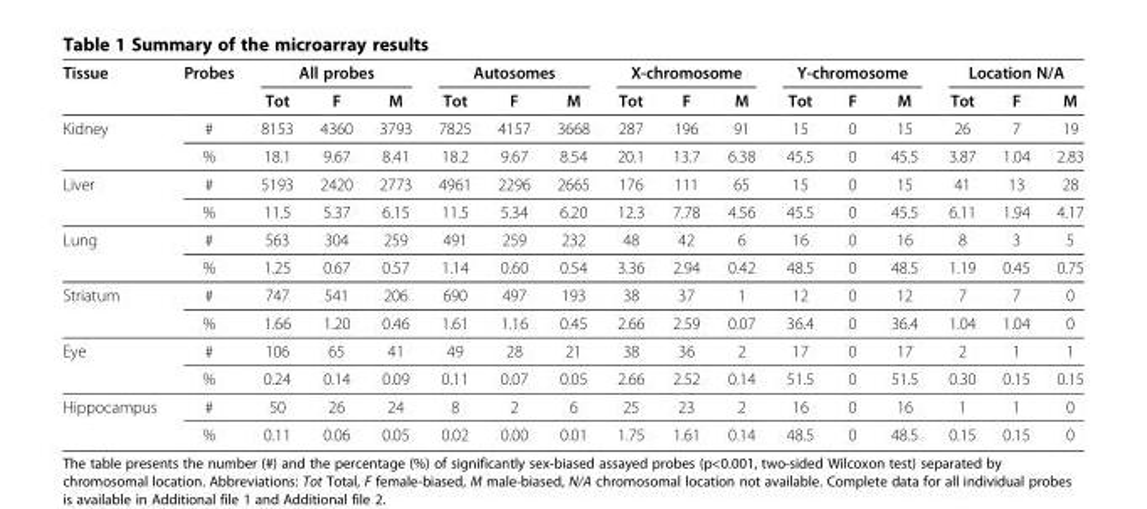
<table><thead><tr><td rowspan="2">Tissue</td><td rowspan="2">Probes</td><td colspan="3">All probes</td><td colspan="3">Autosomes</td><td colspan="3">X-chromosome</td><td colspan="3">Y-chromosome</td><td colspan="3">Location N/A</td></tr><tr><td>Tot</td><td>F</td><td>M</td><td>Tot</td><td>F</td><td>M</td><td>Tot</td><td>F</td><td>M</td><td>Tot</td><td>F</td><td>M</td><td>Tot</td><td>F</td><td>M</td></tr></thead><tbody><tr><td rowspan="2">Kidney</td><td>#</td><td>8153</td><td>4360</td><td>3793</td><td>7825</td><td>4157</td><td>3668</td><td>287</td><td>196</td><td>91</td><td>15</td><td>0</td><td>15</td><td>26</td><td>7</td><td>19</td></tr><tr><td>%</td><td>18.1</td><td>9.67</td><td>8.41</td><td>18.2</td><td>9.67</td><td>8.54</td><td>20.1</td><td>13.7</td><td>6.38</td><td>45.5</td><td>0</td><td>45.5</td><td>3.87</td><td>1.04</td><td>2.83</td></tr><tr><td rowspan="2">Liver</td><td>#</td><td>5193</td><td>2420</td><td>2773</td><td>4961</td><td>2296</td><td>2665</td><td>176</td><td>111</td><td>65</td><td>15</td><td>0</td><td>15</td><td>41</td><td>13</td><td>28</td></tr><tr><td>%</td><td>11.5</td><td>5.37</td><td>6.15</td><td>11.5</td><td>5.34</td><td>6.20</td><td>12.3</td><td>7.78</td><td>4.56</td><td>45.5</td><td>0</td><td>45.5</td><td>6.11</td><td>1.94</td><td>4.17</td></tr><tr><td rowspan="2">Lung</td><td>#</td><td>563</td><td>304</td><td>259</td><td>491</td><td>259</td><td>232</td><td>48</td><td>42</td><td>6</td><td>16</td><td>0</td><td>16</td><td>8</td><td>3</td><td>5</td></tr><tr><td>%</td><td>1.25</td><td>0.67</td><td>0.57</td><td>1.14</td><td>0.60</td><td>0.54</td><td>3.36</td><td>2.94</td><td>0.42</td><td>48.5</td><td>0</td><td>48.5</td><td>1.19</td><td>0.45</td><td>0.75</td></tr><tr><td rowspan="2">Striatum</td><td>#</td><td>747</td><td>541</td><td>206</td><td>690</td><td>497</td><td>193</td><td>38</td><td>37</td><td>1</td><td>12</td><td>0</td><td>12</td><td>7</td><td>7</td><td>0</td></tr><tr><td>%</td><td>1.66</td><td>1.20</td><td>0.46</td><td>1.61</td><td>1.16</td><td>0.45</td><td>2.66</td><td>2.59</td><td>0.07</td><td>36.4</td><td>0</td><td>36.4</td><td>1.04</td><td>1.04</td><td>0</td></tr><tr><td rowspan="2">Eye</td><td>#</td><td>106</td><td>65</td><td>41</td><td>49</td><td>28</td><td>21</td><td>38</td><td>36</td><td>2</td><td>17</td><td>0</td><td>17</td><td>2</td><td>1</td><td>1</td></tr><tr><td>%</td><td>0.24</td><td>0.14</td><td>0.09</td><td>0.11</td><td>0.07</td><td>0.05</td><td>2.66</td><td>2.52</td><td>0.14</td><td>51.5</td><td>0</td><td>51.5</td><td>0.30</td><td>0.15</td><td>0.15</td></tr><tr><td rowspan="2">Hippocampus</td><td>#</td><td>50</td><td>26</td><td>24</td><td>8</td><td>2</td><td>6</td><td>25</td><td>23</td><td>2</td><td>16</td><td>0</td><td>16</td><td>1</td><td>1</td><td>0</td></tr><tr><td>%</td><td>0.11</td><td>0.06</td><td>0.05</td><td>0.02</td><td>0.00</td><td>0.01</td><td>1.75</td><td>1.61</td><td>0.14</td><td>48.5</td><td>0</td><td>48.5</td><td>0.15</td><td>0.15</td><td>0</td></tr></tbody></table>